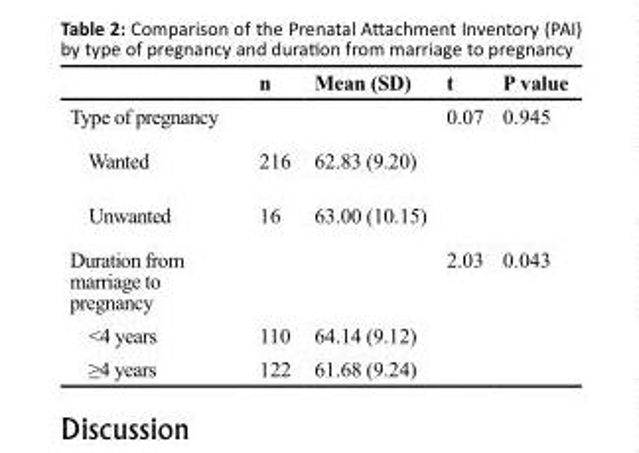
<table><thead><tr><td></td><td>n</td><td>Mean (SD)</td><td>t</td><td>P value</td></tr></thead><tbody><tr><td>Type of pregnancy</td><td></td><td></td><td>0.07</td><td>0.945</td></tr><tr><td>Wanted</td><td>216</td><td>62.83 (9.20)</td><td></td><td></td></tr><tr><td>Unwanted</td><td>16</td><td>63.00 (10.15)</td><td></td><td></td></tr><tr><td>Duration from marriage to pregnancy</td><td></td><td></td><td>2.03</td><td>0.043</td></tr><tr><td>&lt;4 years</td><td>110</td><td>64.14 (9.12)</td><td></td><td></td></tr><tr><td>≥4 years</td><td>122</td><td>61.68 (9.24)</td><td></td><td></td></tr></tbody></table>